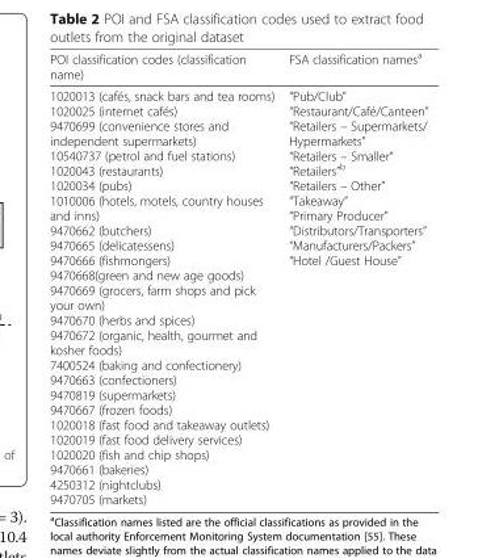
<table><thead><tr><td>POI classification codes (classification name)</td><td>FSA classification names<sup>a</sup></td></tr></thead><tbody><tr><td>1020013 (cafés, snack bars and tea rooms) 1020025 (internet cafés) 9470699 (convenience stores and independent supermarkets) 10540737 (petrol and fuel stations) 1020043 (restaurants) 1020034 (pubs) 1010006 (hotels, motels, country houses and inns) 9470662 (butchers) 9470665 (delicatessens) 9470666 (fishmongers) 9470668(green and new age goods) 9470669 (grocers, farm shops and pick your own) 9470670 (herbs and spices) 9470672 (organic, health, gourmet and kosher foods) 7400524 (baking and confectionery) 9470663 (confectioners) 9470819 (supermarkets) 9470667 (frozen foods) 1020018 (fast food and takeaway outlets) 1020019 (fast food delivery services) 1020020 (fish and chip shops) 9470661 (bakeries) 4250312 (nightclubs) 9470705 (markets)</td><td>“Pub/Club” “Restaurant/Café/Canteen” “Retailers – Supermarkets/ Hypermarkets” “Retailers – Smaller” “Retailers”<sup>b</sup> “Retailers – Other” “Takeaway” “Primary Producer” “Distributors/Transporters” “Manufacturers/Packers” “Hotel /Guest House”</td></tr></tbody></table>